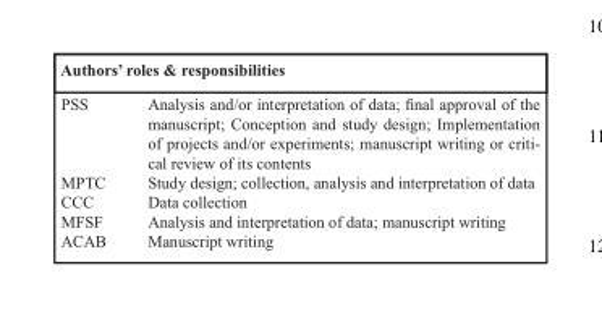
<table><thead><tr><td colspan="2">Authors’ roles &amp; responsibilities</td></tr><tr><td>PSS</td><td>Analysis and/or interpretation of data; final approval of the manuscript; Conception and study design; Implementation of projects and/or experiments; manuscript writing or criti- cal review of its contents</td></tr></thead><tbody><tr><td>MPTC</td><td>Study design; collection, analysis and interpretation of data</td></tr><tr><td>CCC</td><td>Data collection</td></tr><tr><td>MFSF</td><td>Analysis and interpretation of data; manuscript writing</td></tr><tr><td>ACAB</td><td>Manuscript writing</td></tr></tbody></table>